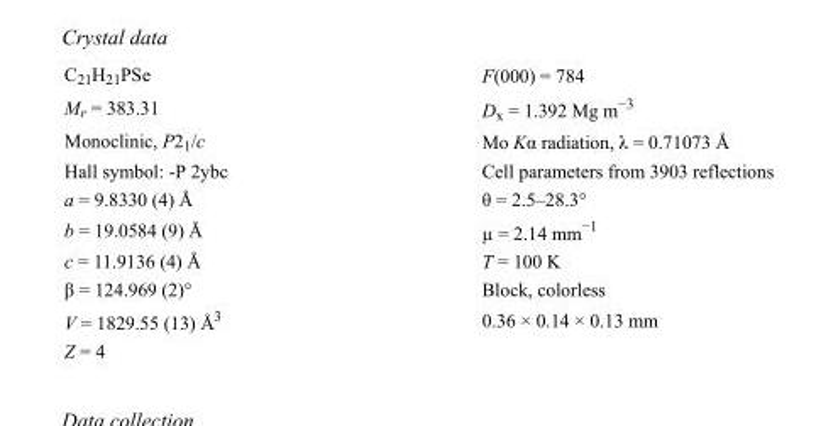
<table><tbody><tr><td>C<sub>21</sub>H<sub>21</sub>PSe</td><td>F(000) = 784</td></tr><tr><td>M<sub>r</sub> = 383.31</td><td>D<sub>x</sub> = 1.392 Mg m<sup>−3</sup></td></tr><tr><td>Monoclinic, P2<sub>1</sub>/c</td><td>Mo Kα radiation, λ = 0.71073 Å</td></tr><tr><td>Hall symbol: -P 2ybc</td><td>Cell parameters from 3903 reflections</td></tr><tr><td>a = 9.8330 (4) Å</td><td>θ = 2.5–28.3°</td></tr><tr><td>b = 19.0584 (9) Å</td><td>µ = 2.14 mm<sup>−1</sup></td></tr><tr><td>c = 11.9136 (4) Å</td><td>T = 100 K</td></tr><tr><td>β = 124.969 (2)°</td><td>Block, colorless</td></tr><tr><td>V = 1829.55 (13) Å<sup>3</sup></td><td>0.36 × 0.14 × 0.13 mm</td></tr><tr><td>Z = 4</td><td></td></tr></tbody></table>